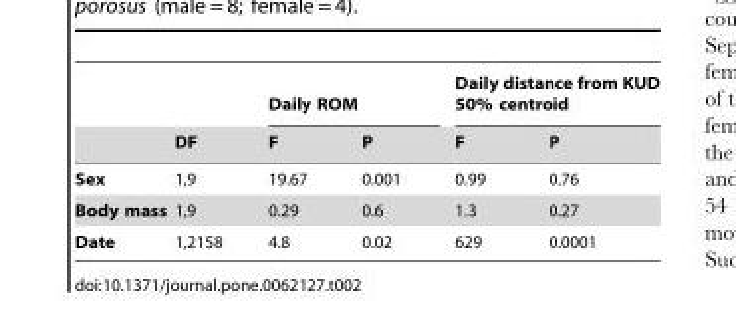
<table><thead><tr><td rowspan="2"></td><td rowspan="2">DF</td><td colspan="2">Daily ROM</td><td colspan="2">Daily distance from KUD 50% centroid</td></tr><tr><td>F</td><td>P</td><td>F</td><td>P</td></tr></thead><tbody><tr><td>Sex</td><td>1,9</td><td>19.67</td><td>0.001</td><td>0.99</td><td>0.76</td></tr><tr><td>Body mass</td><td>1,9</td><td>0.29</td><td>0.6</td><td>1.3</td><td>0.27</td></tr><tr><td>Date</td><td>1,2158</td><td>4.8</td><td>0.02</td><td>629</td><td>0.0001</td></tr></tbody></table>